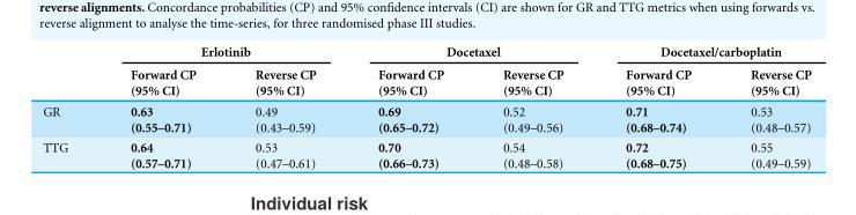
<table><thead><tr><td rowspan="2"></td><td colspan="2">Erlotinib</td><td colspan="2">Docetaxel</td><td colspan="2">Docetaxel/carboplatin</td></tr><tr><td>Forward CP (95% CI)</td><td>Reverse CP (95% CI)</td><td>Forward CP (95% CI)</td><td>Reverse CP (95% CI)</td><td>Forward CP (95% CI)</td><td>Reverse CP (95% CI)</td></tr></thead><tbody><tr><td>GR</td><td>0.63 (0.55–0.71)</td><td>0.49 (0.43–0.59)</td><td>0.69 (0.65–0.72)</td><td>0.52 (0.49–0.56)</td><td>0.71 (0.68–0.74)</td><td>0.53 (0.48–0.57)</td></tr><tr><td>TTG</td><td>0.64 (0.57–0.71)</td><td>0.53 (0.47–0.61)</td><td>0.70 (0.66–0.73)</td><td>0.54 (0.48–0.58)</td><td>0.72 (0.68–0.75)</td><td>0.55 (0.49–0.59)</td></tr></tbody></table>